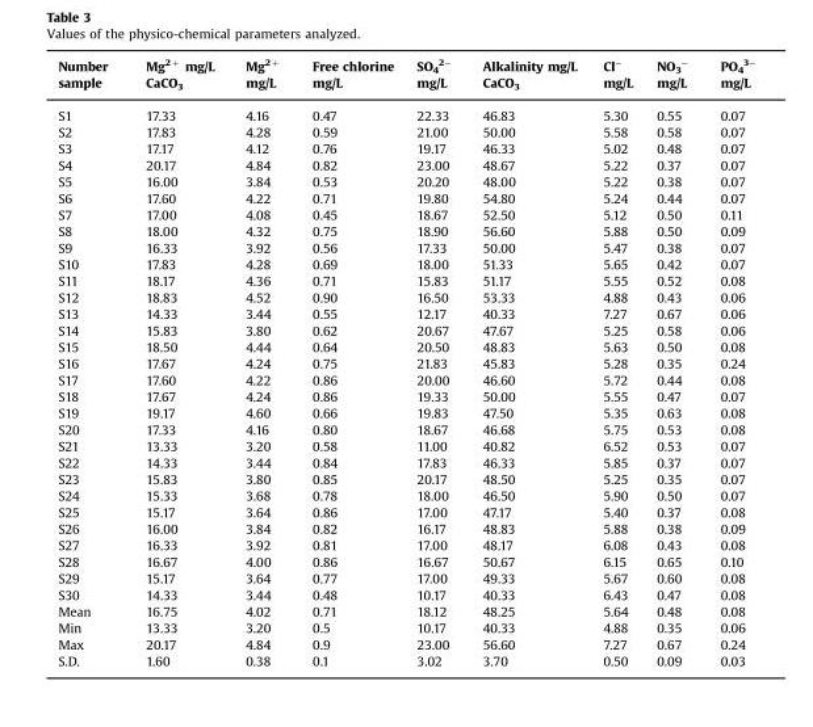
<table><thead><tr><td>Number sample</td><td>Mg<sup>2+</sup> mg/L CaCO<sub>3</sub></td><td>Mg<sup>2+</sup> mg/L</td><td>Free chlorine mg/L</td><td>SO<sub>4</sub> <sup>2−</sup> mg/L</td><td>Alkalinity mg/L CaCO<sub>3</sub></td><td>Cl<sup>−</sup> mg/L</td><td>NO<sub>3</sub> <sup>−</sup> mg/L</td><td>PO<sub>4</sub> <sup>3−</sup> mg/L</td></tr></thead><tbody><tr><td>S1</td><td>17.33</td><td>4.16</td><td>0.47</td><td>22.33</td><td>46.83</td><td>5.30</td><td>0.55</td><td>0.07</td></tr><tr><td>S2</td><td>17.83</td><td>4.28</td><td>0.59</td><td>21.00</td><td>50.00</td><td>5.58</td><td>0.58</td><td>0.07</td></tr><tr><td>S3</td><td>17.17</td><td>4.12</td><td>0.76</td><td>19.17</td><td>46.33</td><td>5.02</td><td>0.48</td><td>0.07</td></tr><tr><td>S4</td><td>20.17</td><td>4.84</td><td>0.82</td><td>23.00</td><td>48.67</td><td>5.22</td><td>0.37</td><td>0.07</td></tr><tr><td>S5</td><td>16.00</td><td>3.84</td><td>0.53</td><td>20.20</td><td>48.00</td><td>5.22</td><td>0.38</td><td>0.07</td></tr><tr><td>S6</td><td>17.60</td><td>4.22</td><td>0.71</td><td>19.80</td><td>54.80</td><td>5.24</td><td>0.44</td><td>0.07</td></tr><tr><td>S7</td><td>17.00</td><td>4.08</td><td>0.45</td><td>18.67</td><td>52.50</td><td>5.12</td><td>0.50</td><td>0.11</td></tr><tr><td>S8</td><td>18.00</td><td>4.32</td><td>0.75</td><td>18.90</td><td>56.60</td><td>5.88</td><td>0.50</td><td>0.09</td></tr><tr><td>S9</td><td>16.33</td><td>3.92</td><td>0.56</td><td>17.33</td><td>50.00</td><td>5.47</td><td>0.38</td><td>0.07</td></tr><tr><td>S10</td><td>17.83</td><td>4.28</td><td>0.69</td><td>18.00</td><td>51.33</td><td>5.65</td><td>0.42</td><td>0.07</td></tr><tr><td>S11</td><td>18.17</td><td>4.36</td><td>0.71</td><td>15.83</td><td>51.17</td><td>5.55</td><td>0.52</td><td>0.08</td></tr><tr><td>S12</td><td>18.83</td><td>4.52</td><td>0.90</td><td>16.50</td><td>53.33</td><td>4.88</td><td>0.43</td><td>0.06</td></tr><tr><td>S13</td><td>14.33</td><td>3.44</td><td>0.55</td><td>12.17</td><td>40.33</td><td>7.27</td><td>0.67</td><td>0.06</td></tr><tr><td>S14</td><td>15.83</td><td>3.80</td><td>0.62</td><td>20.67</td><td>47.67</td><td>5.25</td><td>0.58</td><td>0.06</td></tr><tr><td>S15</td><td>18.50</td><td>4.44</td><td>0.64</td><td>20.50</td><td>48.83</td><td>5.63</td><td>0.50</td><td>0.08</td></tr><tr><td>S16</td><td>17.67</td><td>4.24</td><td>0.75</td><td>21.83</td><td>45.83</td><td>5.28</td><td>0.35</td><td>0.24</td></tr><tr><td>S17</td><td>17.60</td><td>4.22</td><td>0.86</td><td>20.00</td><td>46.60</td><td>5.72</td><td>0.44</td><td>0.08</td></tr><tr><td>S18</td><td>17.67</td><td>4.24</td><td>0.86</td><td>19.33</td><td>50.00</td><td>5.55</td><td>0.47</td><td>0.07</td></tr><tr><td>S19</td><td>19.17</td><td>4.60</td><td>0.66</td><td>19.83</td><td>47.50</td><td>5.35</td><td>0.63</td><td>0.08</td></tr><tr><td>S20</td><td>17.33</td><td>4.16</td><td>0.80</td><td>18.67</td><td>46.68</td><td>5.75</td><td>0.53</td><td>0.08</td></tr><tr><td>S21</td><td>13.33</td><td>3.20</td><td>0.58</td><td>11.00</td><td>40.82</td><td>6.52</td><td>0.53</td><td>0.07</td></tr><tr><td>S22</td><td>14.33</td><td>3.44</td><td>0.84</td><td>17.83</td><td>46.33</td><td>5.85</td><td>0.37</td><td>0.07</td></tr><tr><td>S23</td><td>15.83</td><td>3.80</td><td>0.85</td><td>20.17</td><td>48.50</td><td>5.25</td><td>0.35</td><td>0.07</td></tr><tr><td>S24</td><td>15.33</td><td>3.68</td><td>0.78</td><td>18.00</td><td>46.50</td><td>5.90</td><td>0.50</td><td>0.07</td></tr><tr><td>S25</td><td>15.17</td><td>3.64</td><td>0.86</td><td>17.00</td><td>47.17</td><td>5.40</td><td>0.37</td><td>0.08</td></tr><tr><td>S26</td><td>16.00</td><td>3.84</td><td>0.82</td><td>16.17</td><td>48.83</td><td>5.88</td><td>0.38</td><td>0.09</td></tr><tr><td>S27</td><td>16.33</td><td>3.92</td><td>0.81</td><td>17.00</td><td>48.17</td><td>6.08</td><td>0.43</td><td>0.08</td></tr><tr><td>S28</td><td>16.67</td><td>4.00</td><td>0.86</td><td>16.67</td><td>50.67</td><td>6.15</td><td>0.65</td><td>0.10</td></tr><tr><td>S29</td><td>15.17</td><td>3.64</td><td>0.77</td><td>17.00</td><td>49.33</td><td>5.67</td><td>0.60</td><td>0.08</td></tr><tr><td>S30</td><td>14.33</td><td>3.44</td><td>0.48</td><td>10.17</td><td>40.33</td><td>6.43</td><td>0.47</td><td>0.08</td></tr><tr><td>Mean</td><td>16.75</td><td>4.02</td><td>0.71</td><td>18.12</td><td>48.25</td><td>5.64</td><td>0.48</td><td>0.08</td></tr><tr><td>Min</td><td>13.33</td><td>3.20</td><td>0.5</td><td>10.17</td><td>40.33</td><td>4.88</td><td>0.35</td><td>0.06</td></tr><tr><td>Max</td><td>20.17</td><td>4.84</td><td>0.9</td><td>23.00</td><td>56.60</td><td>7.27</td><td>0.67</td><td>0.24</td></tr><tr><td>S.D.</td><td>1.60</td><td>0.38</td><td>0.1</td><td>3.02</td><td>3.70</td><td>0.50</td><td>0.09</td><td>0.03</td></tr></tbody></table>